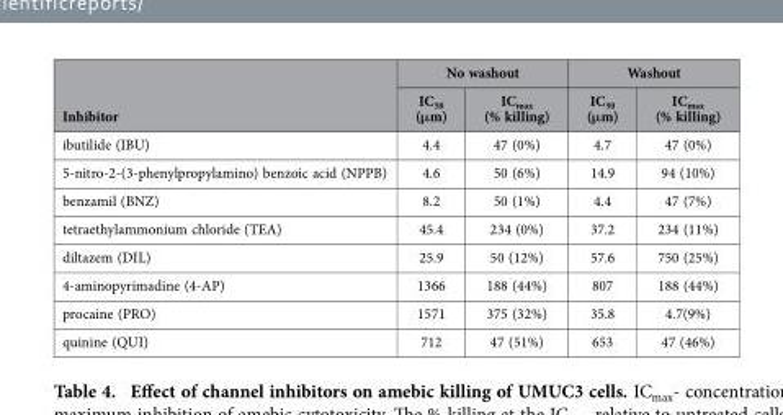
<table><thead><tr><td rowspan="2">Inhibitor</td><td colspan="2">No washout</td><td colspan="2">Washout</td></tr><tr><td>IC<sub>50</sub> (μm)</td><td>IC<sub>max</sub> (% killing)</td><td>IC<sub>50</sub> (μm)</td><td>IC<sub>max</sub> (% killing)</td></tr></thead><tbody><tr><td>ibutilide (IBU)</td><td>4.4</td><td>47 (0%)</td><td>4.7</td><td>47 (0%)</td></tr><tr><td>5-nitro-2-(3-phenylpropylamino) benzoic acid (NPPB)</td><td>4.6</td><td>50 (6%)</td><td>14.9</td><td>94 (10%)</td></tr><tr><td>benzamil (BNZ)</td><td>8.2</td><td>50 (1%)</td><td>4.4</td><td>47 (7%)</td></tr><tr><td>tetraethylammonium chloride (TEA)</td><td>45.4</td><td>234 (0%)</td><td>37.2</td><td>234 (11%)</td></tr><tr><td>diltazem (DIL)</td><td>25.9</td><td>50 (12%)</td><td>57.6</td><td>750 (25%)</td></tr><tr><td>4-aminopyrimadine (4-AP)</td><td>1366</td><td>188 (44%)</td><td>807</td><td>188 (44%)</td></tr><tr><td>procaine (PRO)</td><td>1571</td><td>375 (32%)</td><td>35.8</td><td>4.7(9%)</td></tr><tr><td>quinine (QUI)</td><td>712</td><td>47 (51%)</td><td>653</td><td>47 (46%)</td></tr></tbody></table>